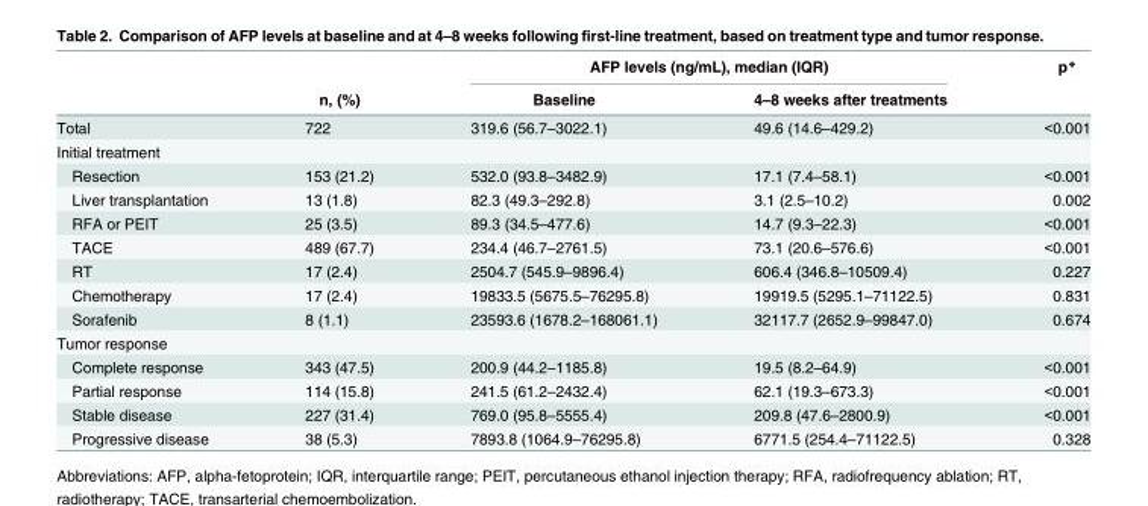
<table><thead><tr><td rowspan="2"></td><td rowspan="2">n, (%)</td><td colspan="2">AFP levels (ng/mL), median (IQR)</td><td rowspan="2">p*</td></tr><tr><td>Baseline</td><td>4–8 weeks after treatments</td></tr></thead><tbody><tr><td>Total</td><td>722</td><td>319.6 (56.7–3022.1)</td><td>49.6 (14.6–429.2)</td><td>&lt;0.001</td></tr><tr><td colspan="5">Initial treatment</td></tr><tr><td>Resection</td><td>153 (21.2)</td><td>532.0 (93.8–3482.9)</td><td>17.1 (7.4–58.1)</td><td>&lt;0.001</td></tr><tr><td>Liver transplantation</td><td>13 (1.8)</td><td>82.3 (49.3–292.8)</td><td>3.1 (2.5–10.2)</td><td>0.002</td></tr><tr><td>RFA or PEIT</td><td>25 (3.5)</td><td>89.3 (34.5–477.6)</td><td>14.7 (9.3–22.3)</td><td>&lt;0.001</td></tr><tr><td>TACE</td><td>489 (67.7)</td><td>234.4 (46.7–2761.5)</td><td>73.1 (20.6–576.6)</td><td>&lt;0.001</td></tr><tr><td>RT</td><td>17 (2.4)</td><td>2504.7 (545.9–9896.4)</td><td>606.4 (346.8–10509.4)</td><td>0.227</td></tr><tr><td>Chemotherapy</td><td>17 (2.4)</td><td>19833.5 (5675.5–76295.8)</td><td>19919.5 (5295.1–71122.5)</td><td>0.831</td></tr><tr><td>Sorafenib</td><td>8 (1.1)</td><td>23593.6 (1678.2–168061.1)</td><td>32117.7 (2652.9–99847.0)</td><td>0.674</td></tr><tr><td colspan="5">Tumor response</td></tr><tr><td>Complete response</td><td>343 (47.5)</td><td>200.9 (44.2–1185.8)</td><td>19.5 (8.2–64.9)</td><td>&lt;0.001</td></tr><tr><td>Partial response</td><td>114 (15.8)</td><td>241.5 (61.2–2432.4)</td><td>62.1 (19.3–673.3)</td><td>&lt;0.001</td></tr><tr><td>Stable disease</td><td>227 (31.4)</td><td>769.0 (95.8–5555.4)</td><td>209.8 (47.6–2800.9)</td><td>&lt;0.001</td></tr><tr><td>Progressive disease</td><td>38 (5.3)</td><td>7893.8 (1064.9–76295.8)</td><td>6771.5 (254.4–71122.5)</td><td>0.328</td></tr></tbody></table>